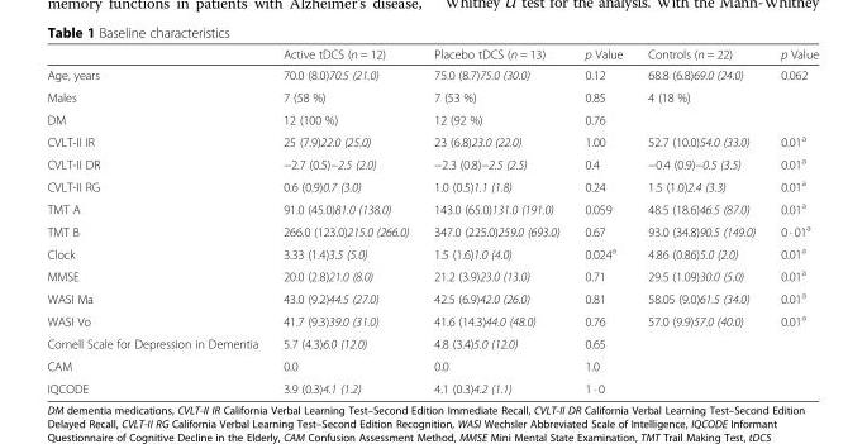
<table><thead><tr><td></td><td>Active tDCS (n = 12)</td><td>Placebo tDCS (n = 13)</td><td>p Value</td><td>Controls (n = 22)</td><td>p Value</td></tr></thead><tbody><tr><td>Age, years</td><td>70.0 (8.0)70.5 (21.0)</td><td>75.0 (8.7)75.0 (30.0)</td><td>0.12</td><td>68.8 (6.8)69.0 (24.0)</td><td>0.062</td></tr><tr><td>Males</td><td>7 (58 %)</td><td>7 (53 %)</td><td>0.85</td><td>4 (18 %)</td><td></td></tr><tr><td>DM</td><td>12 (100 %)</td><td>12 (92 %)</td><td>0.76</td><td></td><td></td></tr><tr><td>CVLT-II IR</td><td>25 (7.9)22.0 (25.0)</td><td>23 (6.8)23.0 (22.0)</td><td>1.00</td><td>52.7 (10.0)54.0 (33.0)</td><td>0.01<sup>a</sup></td></tr><tr><td>CVLT-II DR</td><td>−2.7 (0.5)−2.5 (2.0)</td><td>−2.3 (0.8)−2.5 (2.5)</td><td>0.4</td><td>−0.4 (0.9)−0.5 (3.5)</td><td>0.01<sup>a</sup></td></tr><tr><td>CVLT-II RG</td><td>0.6 (0.9)0.7 (3.0)</td><td>1.0 (0.5)1.1 (1.8)</td><td>0.24</td><td>1.5 (1.0)2.4 (3.3)</td><td>0.01<sup>a</sup></td></tr><tr><td>TMT A</td><td>91.0 (45.0)81.0 (138.0)</td><td>143.0 (65.0)131.0 (191.0)</td><td>0.059</td><td>48.5 (18.6)46.5 (87.0)</td><td>0.01<sup>a</sup></td></tr><tr><td>TMT B</td><td>266.0 (123.0)215.0 (266.0)</td><td>347.0 (225.0)259.0 (693.0)</td><td>0.67</td><td>93.0 (34.8)90.5 (149.0)</td><td>0 · 01<sup>a</sup></td></tr><tr><td>Clock</td><td>3.33 (1.4)3.5 (5.0)</td><td>1.5 (1.6)1.0 (4.0)</td><td>0.024<sup>a</sup></td><td>4.86 (0.86)5.0 (2.0)</td><td>0.01<sup>a</sup></td></tr><tr><td>MMSE</td><td>20.0 (2.8)21.0 (8.0)</td><td>21.2 (3.9)23.0 (13.0)</td><td>0.71</td><td>29.5 (1.09)30.0 (5.0)</td><td>0.01<sup>a</sup></td></tr><tr><td>WASI Ma</td><td>43.0 (9.2)44.5 (27.0)</td><td>42.5 (6.9)42.0 (26.0)</td><td>0.81</td><td>58.05 (9.0)61.5 (34.0)</td><td>0.01<sup>a</sup></td></tr><tr><td>WASI Vo</td><td>41.7 (9.3)39.0 (31.0)</td><td>41.6 (14.3)44.0 (48.0)</td><td>0.76</td><td>57.0 (9.9)57.0 (40.0)</td><td>0.01<sup>a</sup></td></tr><tr><td>Cornell Scale for Depression in Dementia</td><td>5.7 (4.3)6.0 (12.0)</td><td>4.8 (3.4)5.0 (12.0)</td><td>0.65</td><td></td><td></td></tr><tr><td>CAM</td><td>0.0</td><td>0.0</td><td>1.0</td><td></td><td></td></tr><tr><td>IQCODE</td><td>3.9 (0.3)4.1 (1.2)</td><td>4.1 (0.3)4.2 (1.1)</td><td>1 · 0</td><td></td><td></td></tr></tbody></table>